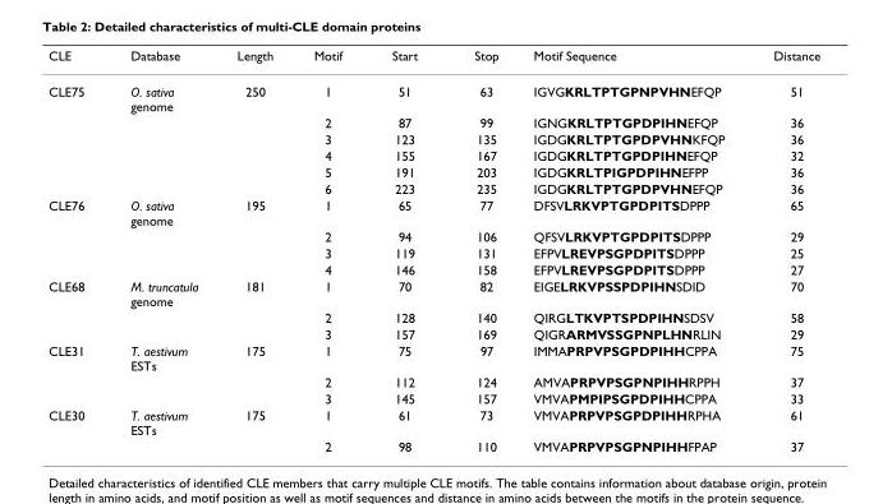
<table><thead><tr><td>CLE</td><td>Database</td><td>Length</td><td>Motif</td><td>Start</td><td>Stop</td><td>Motif Sequence</td><td>Distance</td></tr></thead><tbody><tr><td rowspan="6">CLE75</td><td>O. sativa genome</td><td>250</td><td>1</td><td>51</td><td>63</td><td>IGVGKRLTPTGPNPVHNEFQP</td><td>51</td></tr><tr><td></td><td></td><td>2</td><td>87</td><td>99</td><td>IGNGKRLTPTGPDPIHNEFQP</td><td>36</td></tr><tr><td></td><td></td><td>3</td><td>123</td><td>135</td><td>IGDGKRLTPTGPDPVHNKFQP</td><td>36</td></tr><tr><td></td><td></td><td>4</td><td>155</td><td>167</td><td>IGDGKRLTPTGPDPIHNEFQP</td><td>32</td></tr><tr><td></td><td></td><td>5</td><td>191</td><td>203</td><td>IGDGKRLTPIGPDPIHNEFPP</td><td>36</td></tr><tr><td></td><td></td><td>6</td><td>223</td><td>235</td><td>IGDGKRLTPTGPDPVHNEFQP</td><td>36</td></tr><tr><td rowspan="4">CLE76</td><td>O. sativa genome</td><td>195</td><td>1</td><td>65</td><td>77</td><td>DFSVLRKVPTGPDPITSDPPP</td><td>65</td></tr><tr><td></td><td></td><td>2</td><td>94</td><td>106</td><td>QFSVLRKVPTGPDPITSDPPP</td><td>29</td></tr><tr><td></td><td></td><td>3</td><td>119</td><td>131</td><td>EFPVLREVPSGPDPITSDPPP</td><td>25</td></tr><tr><td></td><td></td><td>4</td><td>146</td><td>158</td><td>EFPVLREVPSGPDPITSDPPP</td><td>27</td></tr><tr><td rowspan="3">CLE68</td><td>M. truncatula genome</td><td>181</td><td>1</td><td>70</td><td>82</td><td>EIGELRKVPSSPDPIHNSDID</td><td>70</td></tr><tr><td></td><td></td><td>2</td><td>128</td><td>140</td><td>QIRGLTKVPTSPDPIHNSDSV</td><td>58</td></tr><tr><td></td><td></td><td>3</td><td>157</td><td>169</td><td>QIGRARMVSSGPNPLHNRLIN</td><td>29</td></tr><tr><td rowspan="3">CLE31</td><td>T. aestivum ESTs</td><td>175</td><td>1</td><td>75</td><td>97</td><td>IMMAPRPVPSGPDPIHHCPPA</td><td>75</td></tr><tr><td></td><td></td><td>2</td><td>112</td><td>124</td><td>AMVAPRPVPSGPNPIHHRPPH</td><td>37</td></tr><tr><td></td><td></td><td>3</td><td>145</td><td>157</td><td>VMVAPMPIPSGPDPIHHCPPA</td><td>33</td></tr><tr><td rowspan="2">CLE30</td><td>T. aestivum ESTs</td><td>175</td><td>1</td><td>61</td><td>73</td><td>VMVAPRPVPSGPDPIHHRPHA</td><td>61</td></tr><tr><td></td><td></td><td>2</td><td>98</td><td>110</td><td>VMVAPRPVPSGPNPIHHFPAP</td><td>37</td></tr></tbody></table>